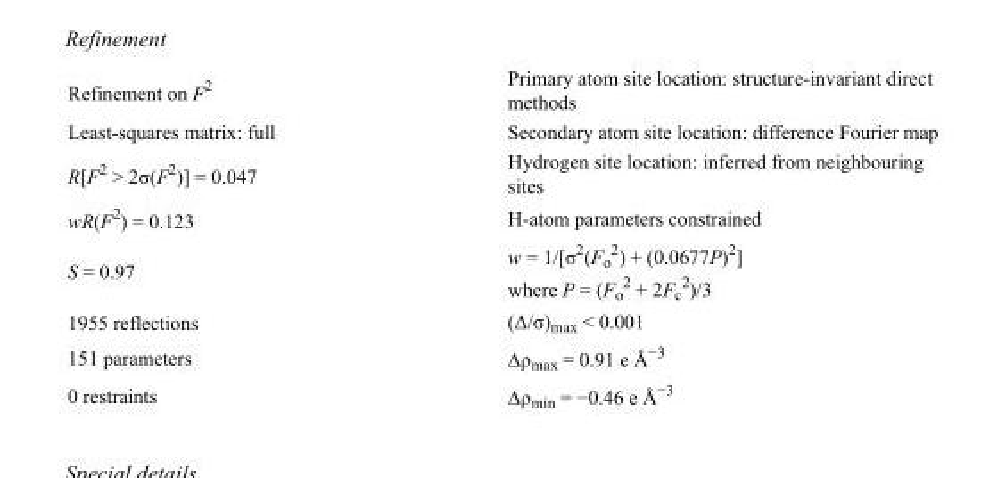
<table><tbody><tr><td>Refinement on F<sup>2</sup></td><td>Primary atom site location: structure-invariant direct methods</td></tr><tr><td>Least-squares matrix: full</td><td>Secondary atom site location: difference Fourier map</td></tr><tr><td>R[F<sup>2</sup> &gt; 2σ(F<sup>2</sup>)] = 0.047</td><td>Hydrogen site location: inferred from neighbouring sites</td></tr><tr><td>wR(F<sup>2</sup>) = 0.123</td><td>H-atom parameters constrained</td></tr><tr><td>S = 0.97</td><td>w = 1/[σ<sup>2</sup>(F<sub>o</sub> <sup>2</sup>) + (0.0677P)<sup>2</sup>] where P = (F<sub>o</sub> <sup>2</sup> + 2F<sub>c</sub> <sup>2</sup>)/3</td></tr><tr><td>1955 reflections</td><td>(Δ/σ)<sub>max</sub> &lt; 0.001</td></tr><tr><td>151 parameters</td><td>Δρ<sub>max</sub> = 0.91 e Å<sup>−3</sup></td></tr><tr><td>0 restraints</td><td>Δρ<sub>min</sub> = −0.46 e Å<sup>−3</sup></td></tr></tbody></table>